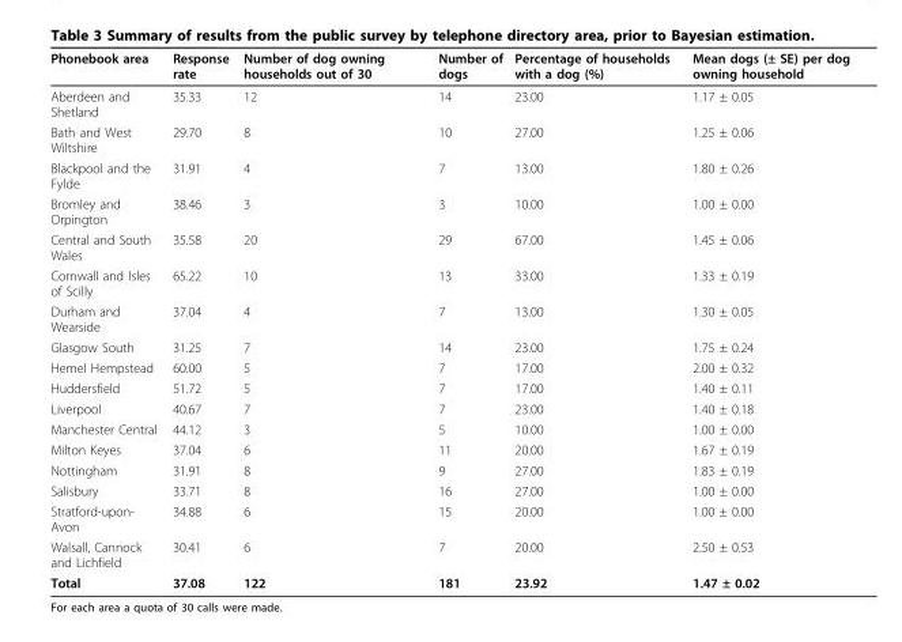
<table><thead><tr><td>Phonebook area</td><td>Response rate</td><td>Number of dog owning households out of 30</td><td>Number of dogs</td><td>Percentage of households with a dog (%)</td><td>Mean dogs (± SE) per dog owning household</td></tr></thead><tbody><tr><td>Aberdeen and Shetland</td><td>35.33</td><td>12</td><td>14</td><td>23.00</td><td>1.17 ± 0.05</td></tr><tr><td>Bath and West Wiltshire</td><td>29.70</td><td>8</td><td>10</td><td>27.00</td><td>1.25 ± 0.06</td></tr><tr><td>Blackpool and the Fylde</td><td>31.91</td><td>4</td><td>7</td><td>13.00</td><td>1.80 ± 0.26</td></tr><tr><td>Bromley and Orpington</td><td>38.46</td><td>3</td><td>3</td><td>10.00</td><td>1.00 ± 0.00</td></tr><tr><td>Central and South Wales</td><td>35.58</td><td>20</td><td>29</td><td>67.00</td><td>1.45 ± 0.06</td></tr><tr><td>Cornwall and Isles of Scilly</td><td>65.22</td><td>10</td><td>13</td><td>33.00</td><td>1.33 ± 0.19</td></tr><tr><td>Durham and Wearside</td><td>37.04</td><td>4</td><td>7</td><td>13.00</td><td>1.30 ± 0.05</td></tr><tr><td>Glasgow South</td><td>31.25</td><td>7</td><td>14</td><td>23.00</td><td>1.75 ± 0.24</td></tr><tr><td>Hemel Hempstead</td><td>60.00</td><td>5</td><td>7</td><td>17.00</td><td>2.00 ± 0.32</td></tr><tr><td>Huddersfield</td><td>51.72</td><td>5</td><td>7</td><td>17.00</td><td>1.40 ± 0.11</td></tr><tr><td>Liverpool</td><td>40.67</td><td>7</td><td>7</td><td>23.00</td><td>1.40 ± 0.18</td></tr><tr><td>Manchester Central</td><td>44.12</td><td>3</td><td>5</td><td>10.00</td><td>1.00 ± 0.00</td></tr><tr><td>Milton Keyes</td><td>37.04</td><td>6</td><td>11</td><td>20.00</td><td>1.67 ± 0.19</td></tr><tr><td>Nottingham</td><td>31.91</td><td>8</td><td>9</td><td>27.00</td><td>1.83 ± 0.19</td></tr><tr><td>Salisbury</td><td>33.71</td><td>8</td><td>16</td><td>27.00</td><td>1.00 ± 0.00</td></tr><tr><td>Stratford-upon- Avon</td><td>34.88</td><td>6</td><td>15</td><td>20.00</td><td>1.00 ± 0.00</td></tr><tr><td>Walsall, Cannock and Lichfield</td><td>30.41</td><td>6</td><td>7</td><td>20.00</td><td>2.50 ± 0.53</td></tr><tr><td>Total</td><td>37.08</td><td>122</td><td>181</td><td>23.92</td><td>1.47 ± 0.02</td></tr></tbody></table>